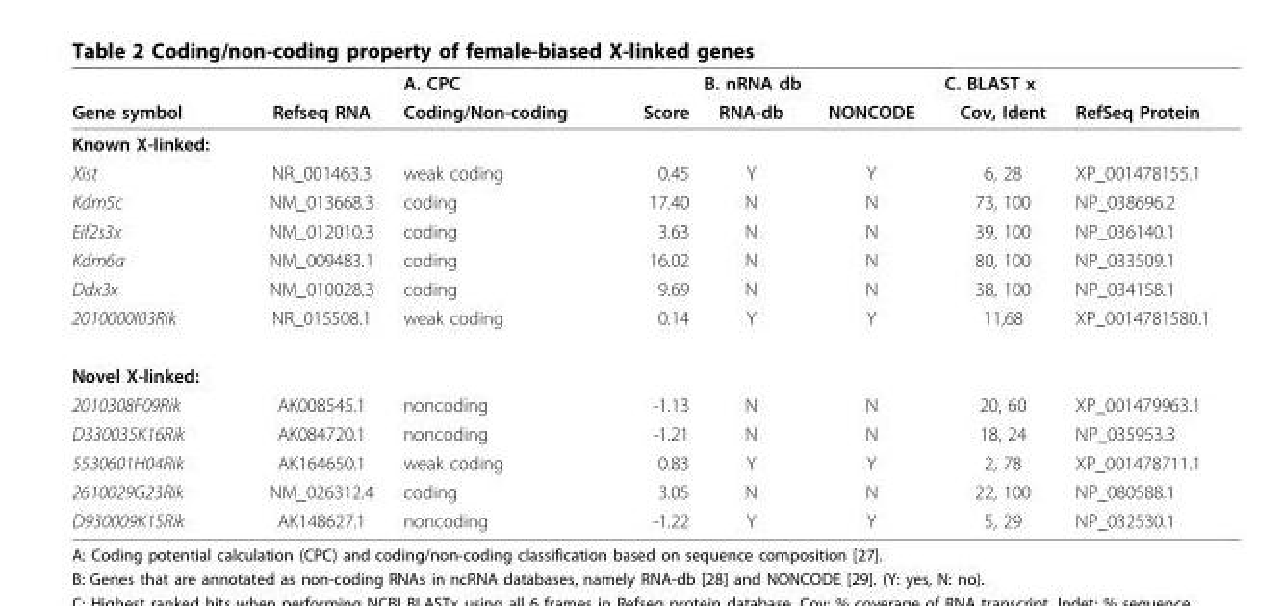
<table><thead><tr><td rowspan="2">Gene symbol</td><td rowspan="2">Refseq RNA</td><td colspan="2">A. CPC</td><td colspan="2">B. nRNA db</td><td colspan="2">C. BLAST x</td></tr><tr><td>Coding/Non-coding</td><td>Score</td><td>RNA-db</td><td>NONCODE</td><td>Cov, Ident</td><td>RefSeq Protein</td></tr></thead><tbody><tr><td colspan="8">Known X-linked:</td></tr><tr><td>Xist</td><td>NR_001463.3</td><td>weak coding</td><td>0.45</td><td>Y</td><td>Y</td><td>6, 28</td><td>XP_001478155.1</td></tr><tr><td>Kdm5c</td><td>NM_013668.3</td><td>coding</td><td>17.40</td><td>N</td><td>N</td><td>73, 100</td><td>NP_038696.2</td></tr><tr><td>Eif2s3x</td><td>NM_012010.3</td><td>coding</td><td>3.63</td><td>N</td><td>N</td><td>39, 100</td><td>NP_036140.1</td></tr><tr><td>Kdm6a</td><td>NM_009483.1</td><td>coding</td><td>16.02</td><td>N</td><td>N</td><td>80, 100</td><td>NP_033509.1</td></tr><tr><td>Ddx3x</td><td>NM_010028.3</td><td>coding</td><td>9.69</td><td>N</td><td>N</td><td>38, 100</td><td>NP_034158.1</td></tr><tr><td>2010000I03Rik</td><td>NR_015508.1</td><td>weak coding</td><td>0.14</td><td>Y</td><td>Y</td><td>11,68</td><td>XP_0014781580.1</td></tr><tr><td colspan="8">Novel X-linked:</td></tr><tr><td>2010308F09Rik</td><td>AK008545.1</td><td>noncoding</td><td>-1.13</td><td>N</td><td>N</td><td>20, 60</td><td>XP_001479963.1</td></tr><tr><td>D330035K16Rik</td><td>AK084720.1</td><td>noncoding</td><td>-1.21</td><td>N</td><td>N</td><td>18, 24</td><td>NP_035953.3</td></tr><tr><td>5530601H04Rik</td><td>AK164650.1</td><td>weak coding</td><td>0.83</td><td>Y</td><td>Y</td><td>2, 78</td><td>XP_001478711.1</td></tr><tr><td>2610029G23Rik</td><td>NM_026312.4</td><td>coding</td><td>3.05</td><td>N</td><td>N</td><td>22, 100</td><td>NP_080588.1</td></tr><tr><td>D930009K15Rik</td><td>AK148627.1</td><td>noncoding</td><td>-1.22</td><td>Y</td><td>Y</td><td>5, 29</td><td>NP_032530.1</td></tr></tbody></table>